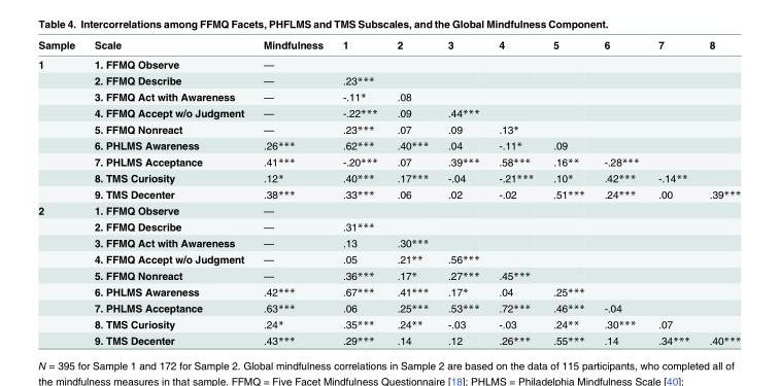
<table><thead><tr><td>Sample</td><td>Scale</td><td>Mindfulness</td><td>1</td><td>2</td><td>3</td><td>4</td><td>5</td><td>6</td><td>7</td><td>8</td></tr></thead><tbody><tr><td rowspan="9">1</td><td>1. FFMQ Observe</td><td>—</td><td></td><td></td><td></td><td></td><td></td><td></td><td></td><td></td></tr><tr><td>2. FFMQ Describe</td><td>—</td><td>.23***</td><td></td><td></td><td></td><td></td><td></td><td></td><td></td></tr><tr><td>3. FFMQ Act with Awareness</td><td>—</td><td>-.11*</td><td>.08</td><td></td><td></td><td></td><td></td><td></td><td></td></tr><tr><td>4. FFMQ Accept w/o Judgment</td><td>—</td><td>-.22***</td><td>.09</td><td>.44***</td><td></td><td></td><td></td><td></td><td></td></tr><tr><td>5. FFMQ Nonreact</td><td>—</td><td>.23***</td><td>.07</td><td>.09</td><td>.13*</td><td></td><td></td><td></td><td></td></tr><tr><td>6. PHLMS Awareness</td><td>.26***</td><td>.62***</td><td>.40***</td><td>.04</td><td>-.11*</td><td>.09</td><td></td><td></td><td></td></tr><tr><td>7. PHLMS Acceptance</td><td>.41***</td><td>-.20***</td><td>.07</td><td>.39***</td><td>.58***</td><td>.16**</td><td>-.28***</td><td></td><td></td></tr><tr><td>8. TMS Curiosity</td><td>.12*</td><td>.40***</td><td>.17***</td><td>-.04</td><td>-.21***</td><td>.10*</td><td>.42***</td><td>-.14**</td><td></td></tr><tr><td>9. TMS Decenter</td><td>.38***</td><td>.33***</td><td>.06</td><td>.02</td><td>-.02</td><td>.51***</td><td>.24***</td><td>.00</td><td>.39***</td></tr><tr><td rowspan="9">2</td><td>1. FFMQ Observe</td><td>—</td><td></td><td></td><td></td><td></td><td></td><td></td><td></td><td></td></tr><tr><td>2. FFMQ Describe</td><td>—</td><td>.31***</td><td></td><td></td><td></td><td></td><td></td><td></td><td></td></tr><tr><td>3. FFMQ Act with Awareness</td><td>—</td><td>.13</td><td>.30***</td><td></td><td></td><td></td><td></td><td></td><td></td></tr><tr><td>4. FFMQ Accept w/o Judgment</td><td>—</td><td>.05</td><td>.21**</td><td>.56***</td><td></td><td></td><td></td><td></td><td></td></tr><tr><td>5. FFMQ Nonreact</td><td>—</td><td>.36***</td><td>.17*</td><td>.27***</td><td>.45***</td><td></td><td></td><td></td><td></td></tr><tr><td>6. PHLMS Awareness</td><td>.42***</td><td>.67***</td><td>.41***</td><td>.17*</td><td>.04</td><td>.25***</td><td></td><td></td><td></td></tr><tr><td>7. PHLMS Acceptance</td><td>.63***</td><td>.06</td><td>.25***</td><td>.53***</td><td>.72***</td><td>.46***</td><td>-.04</td><td></td><td></td></tr><tr><td>8. TMS Curiosity</td><td>.24*</td><td>.35***</td><td>.24**</td><td>-.03</td><td>-.03</td><td>.24**</td><td>.30***</td><td>.07</td><td></td></tr><tr><td>9. TMS Decenter</td><td>.43***</td><td>.29***</td><td>.14</td><td>.12</td><td>.26***</td><td>.55***</td><td>.14</td><td>.34***</td><td>.40***</td></tr></tbody></table>